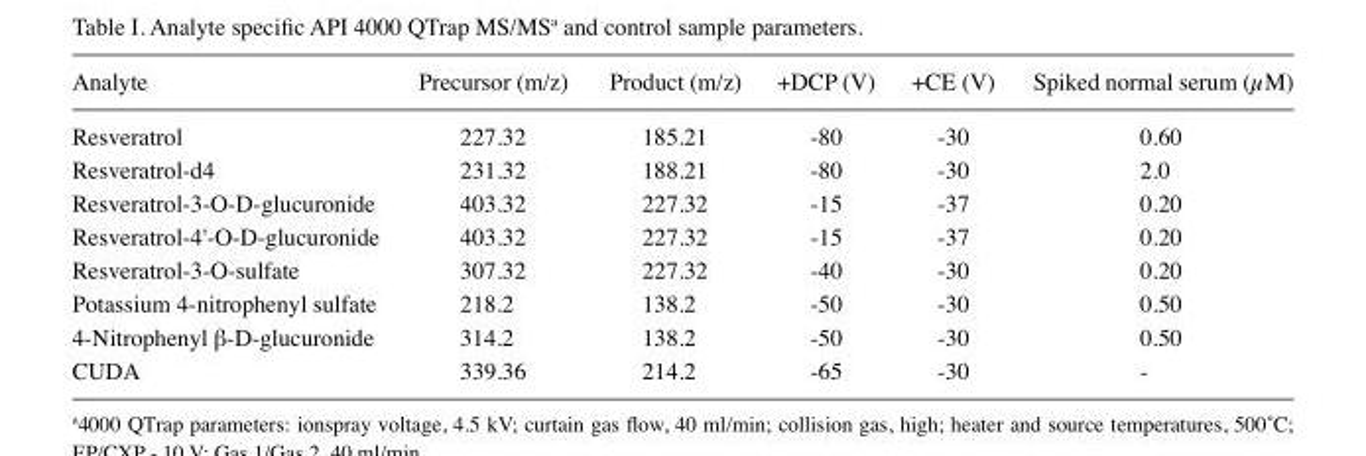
<table><thead><tr><td>Analyte</td><td>Precursor (m/z)</td><td>Product (m/z)</td><td>+DCP (V)</td><td>+CE (V)</td><td>Spiked normal serum (µM)</td></tr></thead><tbody><tr><td>Resveratrol</td><td>227.32</td><td>185.21</td><td>-80</td><td>-30</td><td>0.60</td></tr><tr><td>Resveratrol-d4</td><td>231.32</td><td>188.21</td><td>-80</td><td>-30</td><td>2.0</td></tr><tr><td>Resveratrol-3-O-D-glucuronide</td><td>403.32</td><td>227.32</td><td>-15</td><td>-37</td><td>0.20</td></tr><tr><td>Resveratrol-4&#x27;-O-D-glucuronide</td><td>403.32</td><td>227.32</td><td>-15</td><td>-37</td><td>0.20</td></tr><tr><td>Resveratrol-3-O-sulfate</td><td>307.32</td><td>227.32</td><td>-40</td><td>-30</td><td>0.20</td></tr><tr><td>Potassium 4-nitrophenyl sulfate</td><td>218.2</td><td>138.2</td><td>-50</td><td>-30</td><td>0.50</td></tr><tr><td>4-Nitrophenyl β-D-glucuronide</td><td>314.2</td><td>138.2</td><td>-50</td><td>-30</td><td>0.50</td></tr><tr><td>CUDA</td><td>339.36</td><td>214.2</td><td>-65</td><td>-30</td><td>-</td></tr></tbody></table>